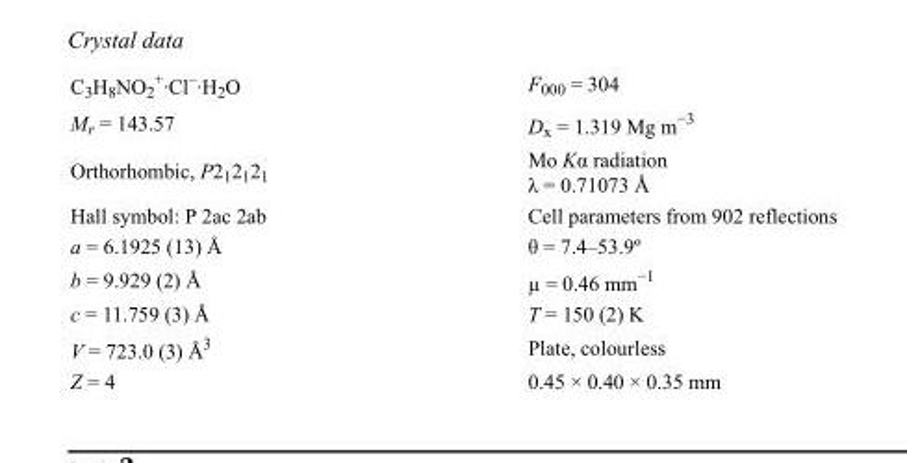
<table><tbody><tr><td>C<sub>3</sub>H<sub>8</sub>NO<sub>2</sub> <sup>+</sup>·Cl<sup>–</sup>·H<sub>2</sub>O</td><td>F<sub>000</sub> = 304</td></tr><tr><td>M<sub>r</sub> = 143.57</td><td>D<sub>x</sub> = 1.319 Mg m<sup>−3</sup></td></tr><tr><td>Orthorhombic, P2<sub>1</sub>2<sub>1</sub>2<sub>1</sub></td><td>Mo Kα radiation λ = 0.71073 Å</td></tr><tr><td>Hall symbol: P 2ac 2ab</td><td>Cell parameters from 902 reflections</td></tr><tr><td>a = 6.1925 (13) Å</td><td>θ = 7.4–53.9º</td></tr><tr><td>b = 9.929 (2) Å</td><td>µ = 0.46 mm<sup>−1</sup></td></tr><tr><td>c = 11.759 (3) Å</td><td>T = 150 (2) K</td></tr><tr><td>V = 723.0 (3) Å<sup>3</sup></td><td>Plate, colourless</td></tr><tr><td>Z = 4</td><td>0.45 × 0.40 × 0.35 mm</td></tr></tbody></table>